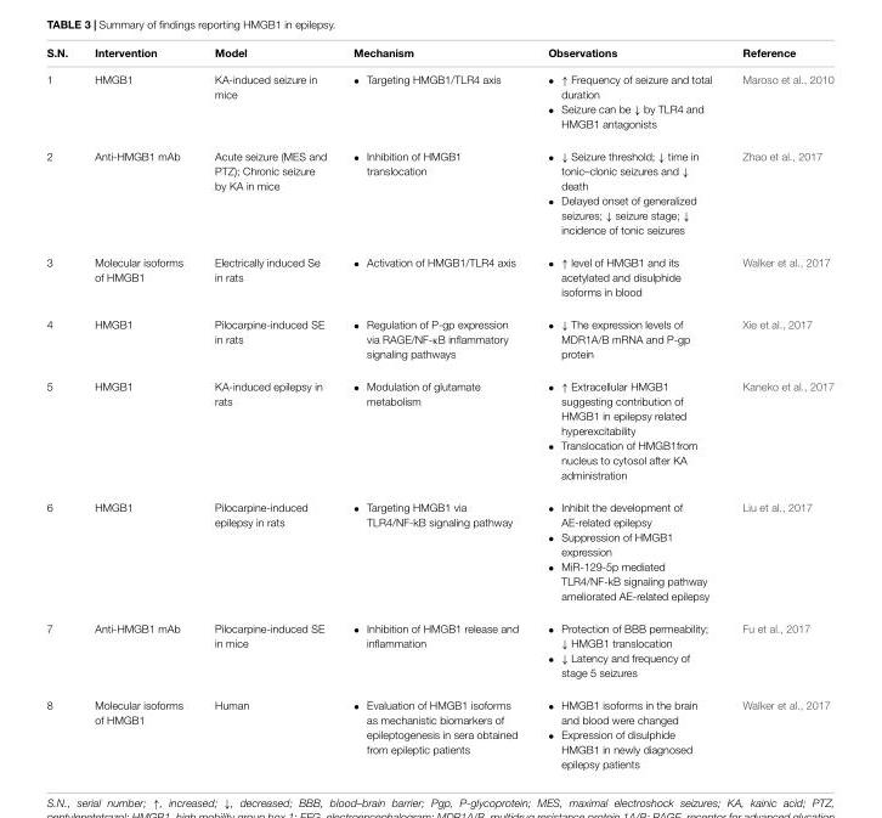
<table><thead><tr><td>S.N.</td><td>Intervention</td><td>Model</td><td>Mechanism</td><td>Observations</td><td>Reference</td></tr></thead><tbody><tr><td>1</td><td>HMGB1</td><td>KA-induced seizure in mice</td><td>• Targeting HMGB1/TLR4 axis</td><td>• ↑ Frequency of seizure and total duration • Seizure can be ↓ by TLR4 and HMGB1 antagonists</td><td>Maroso et al., 2010</td></tr><tr><td>2</td><td>Anti-HMGB1 mAb</td><td>Acute seizure (MES and PTZ); Chronic seizure by KA in mice</td><td>• Inhibition of HMGB1 translocation</td><td>• ↓ Seizure threshold; ↓ time in tonic–clonic seizures and ↓ death • Delayed onset of generalized seizures; ↓ seizure stage; ↓ incidence of tonic seizures</td><td>Zhao et al., 2017</td></tr><tr><td>3</td><td>Molecular isoforms of HMGB1</td><td>Electrically induced Se in rats</td><td>• Activation of HMGB1/TLR4 axis</td><td>• ↑ level of HMGB1 and its acetylated and disulphide isoforms in blood</td><td>Walker et al., 2017</td></tr><tr><td>4</td><td>HMGB1</td><td>Pilocarpine-induced SE in rats</td><td>• Regulation of P-gp expression via RAGE/NF-κB inflammatory signaling pathways</td><td>• ↓ The expression levels of MDR1A/B mRNA and P-gp protein</td><td>Xie et al., 2017</td></tr><tr><td>5</td><td>HMGB1</td><td>KA-induced epilepsy in rats</td><td>• Modulation of glutamate metabolism</td><td>• ↑ Extracellular HMGB1 suggesting contribution of HMGB1 in epilepsy related hyperexcitability • Translocation of HMGB1from nucleus to cytosol after KA administration</td><td>Kaneko et al., 2017</td></tr><tr><td>6</td><td>HMGB1</td><td>Pilocarpine-induced epilepsy in rats</td><td>• Targeting HMGB1 via TLR4/NF-kB signaling pathway</td><td>• Inhibit the development of AE-related epilepsy • Suppression of HMGB1 expression • MiR-129-5p mediated TLR4/NF-kB signaling pathway ameliorated AE-related epilepsy</td><td>Liu et al., 2017</td></tr><tr><td>7</td><td>Anti-HMGB1 mAb</td><td>Pilocarpine-induced SE in mice</td><td>• Inhibition of HMGB1 release and inflammation</td><td>• Protection of BBB permeability; ↓ HMGB1 translocation • ↓ Latency and frequency of stage 5 seizures</td><td>Fu et al., 2017</td></tr><tr><td>8</td><td>Molecular isoforms of HMGB1</td><td>Human</td><td>• Evaluation of HMGB1 isoforms as mechanistic biomarkers of epileptogenesis in sera obtained from epileptic patients</td><td>• HMGB1 isoforms in the brain and blood were changed • Expression of disulphide HMGB1 in newly diagnosed epilepsy patients</td><td>Walker et al., 2017</td></tr></tbody></table>